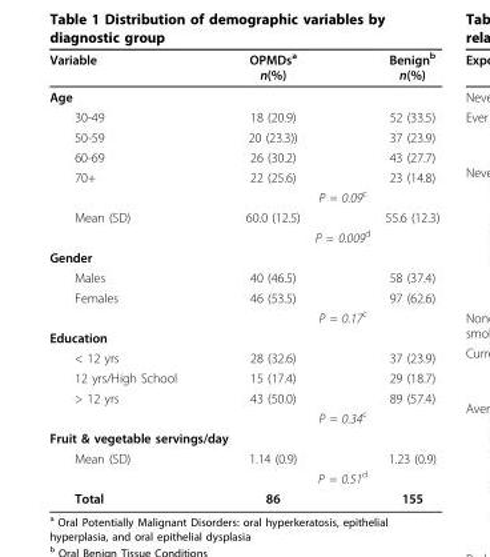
<table><thead><tr><td>Variable</td><td>OPMDs<sup>a</sup> n(%)</td><td></td><td>Benign<sup>b</sup> n(%)</td></tr></thead><tbody><tr><td colspan="4">Age</td></tr><tr><td>30-49</td><td>18 (20.9)</td><td></td><td>52 (33.5)</td></tr><tr><td>50-59</td><td>20 (23.3))</td><td></td><td>37 (23.9)</td></tr><tr><td>60-69</td><td>26 (30.2)</td><td></td><td>43 (27.7)</td></tr><tr><td rowspan="2">70+</td><td>22 (25.6)</td><td></td><td>23 (14.8)</td></tr><tr><td></td><td>P = 0.09<sup>c</sup></td><td></td></tr><tr><td rowspan="2">Mean (SD)</td><td>60.0 (12.5)</td><td></td><td>55.6 (12.3)</td></tr><tr><td></td><td>P = 0.009<sup>d</sup></td><td></td></tr><tr><td colspan="4">Gender</td></tr><tr><td>Males</td><td>40 (46.5)</td><td></td><td>58 (37.4)</td></tr><tr><td rowspan="2">Females</td><td>46 (53.5)</td><td></td><td>97 (62.6)</td></tr><tr><td></td><td>P = 0.17<sup>c</sup></td><td></td></tr><tr><td colspan="4">Education</td></tr><tr><td>&lt; 12 yrs</td><td>28 (32.6)</td><td></td><td>37 (23.9)</td></tr><tr><td>12 yrs/High School</td><td>15 (17.4)</td><td></td><td>29 (18.7)</td></tr><tr><td rowspan="2">&gt; 12 yrs</td><td>43 (50.0)</td><td></td><td>89 (57.4)</td></tr><tr><td></td><td>P = 0.34<sup>c</sup></td><td></td></tr><tr><td colspan="4">Fruit &amp; vegetable servings/day</td></tr><tr><td rowspan="2">Mean (SD)</td><td>1.14 (0.9)</td><td></td><td>1.23 (0.9)</td></tr><tr><td></td><td>P = 0.51<sup>d</sup></td><td></td></tr><tr><td>Total</td><td>86</td><td></td><td>155</td></tr></tbody></table>